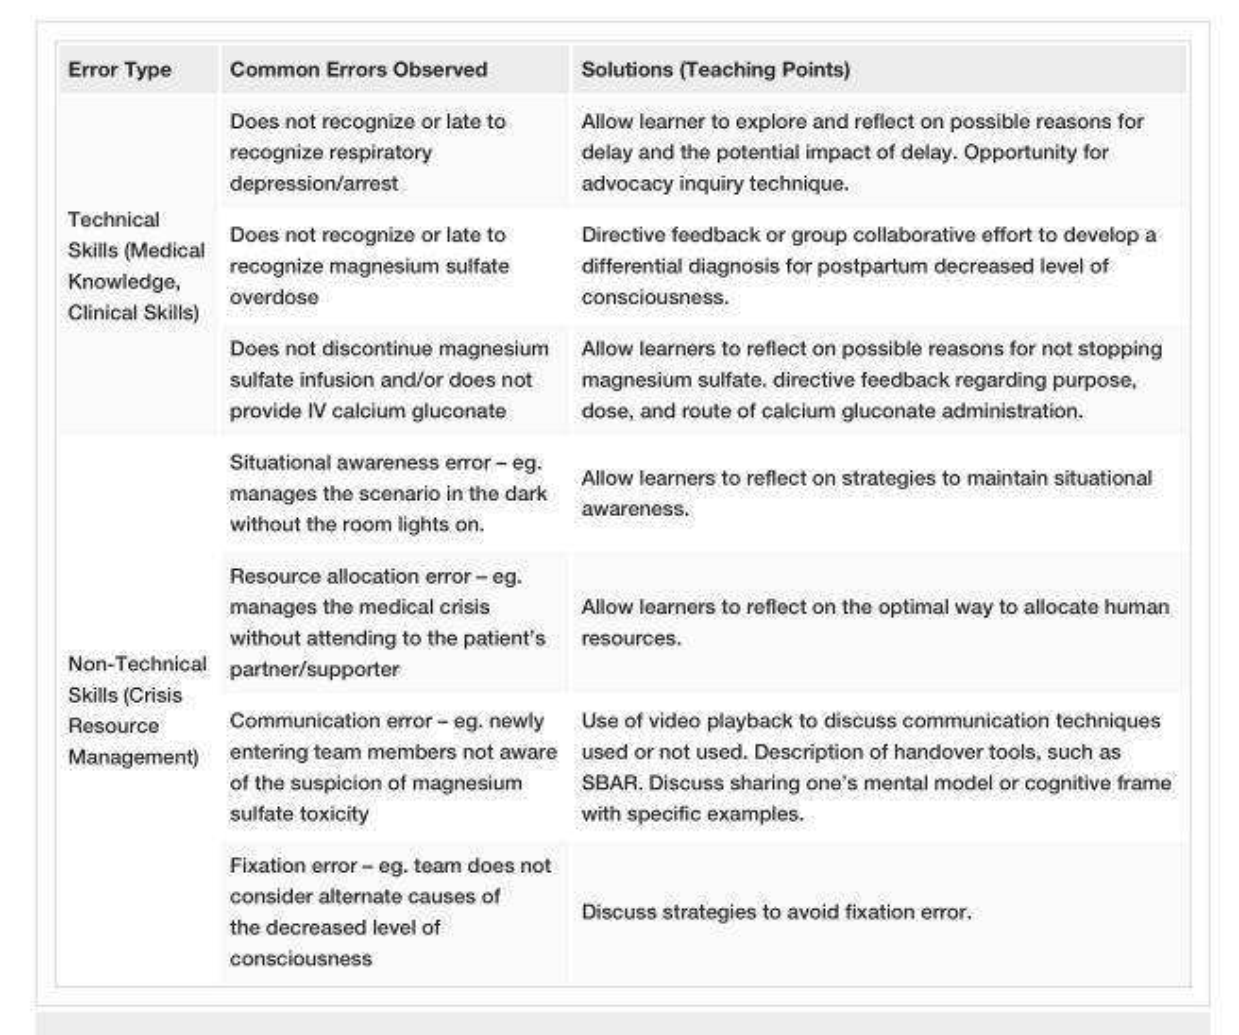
<table><tbody><tr><td>Error Type</td><td>Common Errors Observed</td><td>Solutions (Teaching Points)</td></tr><tr><td rowspan="3">Technical Skills (Medical Knowledge, Clinical Skills)</td><td>Does not recognize or late to recognize respiratory depression/arrest</td><td>Allow learner to explore and reflect on possible reasons for delay and the potential impact of delay. Opportunity for advocacy inquiry technique.</td></tr><tr><td>Does not recognize or late to recognize magnesium sulfate overdose</td><td>Directive feedback or group collaborative effort to develop a differential diagnosis for postpartum decreased level of consciousness.</td></tr><tr><td>Does not discontinue magnesium sulfate infusion and/or does not provide IV calcium gluconate</td><td>Allow learners to reflect on possible reasons for not stopping magnesium sulfate. directive feedback regarding purpose, dose, and route of calcium gluconate administration.</td></tr><tr><td rowspan="4">Non-Technical Skills (Crisis Resource Management)</td><td>Situational awareness error – eg. manages the scenario in the dark without the room lights on.</td><td>Allow learners to reflect on strategies to maintain situational awareness.</td></tr><tr><td>Resource allocation error – eg. manages the medical crisis without attending to the patient’s partner/supporter</td><td>Allow learners to reflect on the optimal way to allocate human resources.</td></tr><tr><td>Communication error – eg. newly entering team members not aware of the suspicion of magnesium sulfate toxicity</td><td>Use of video playback to discuss communication techniques used or not used. Description of handover tools, such as SBAR. Discuss sharing one’s mental model or cognitive frame with specific examples.</td></tr><tr><td>Fixation error – eg. team does not consider alternate causes of the decreased level of consciousness</td><td>Discuss strategies to avoid fixation error.</td></tr></tbody></table>